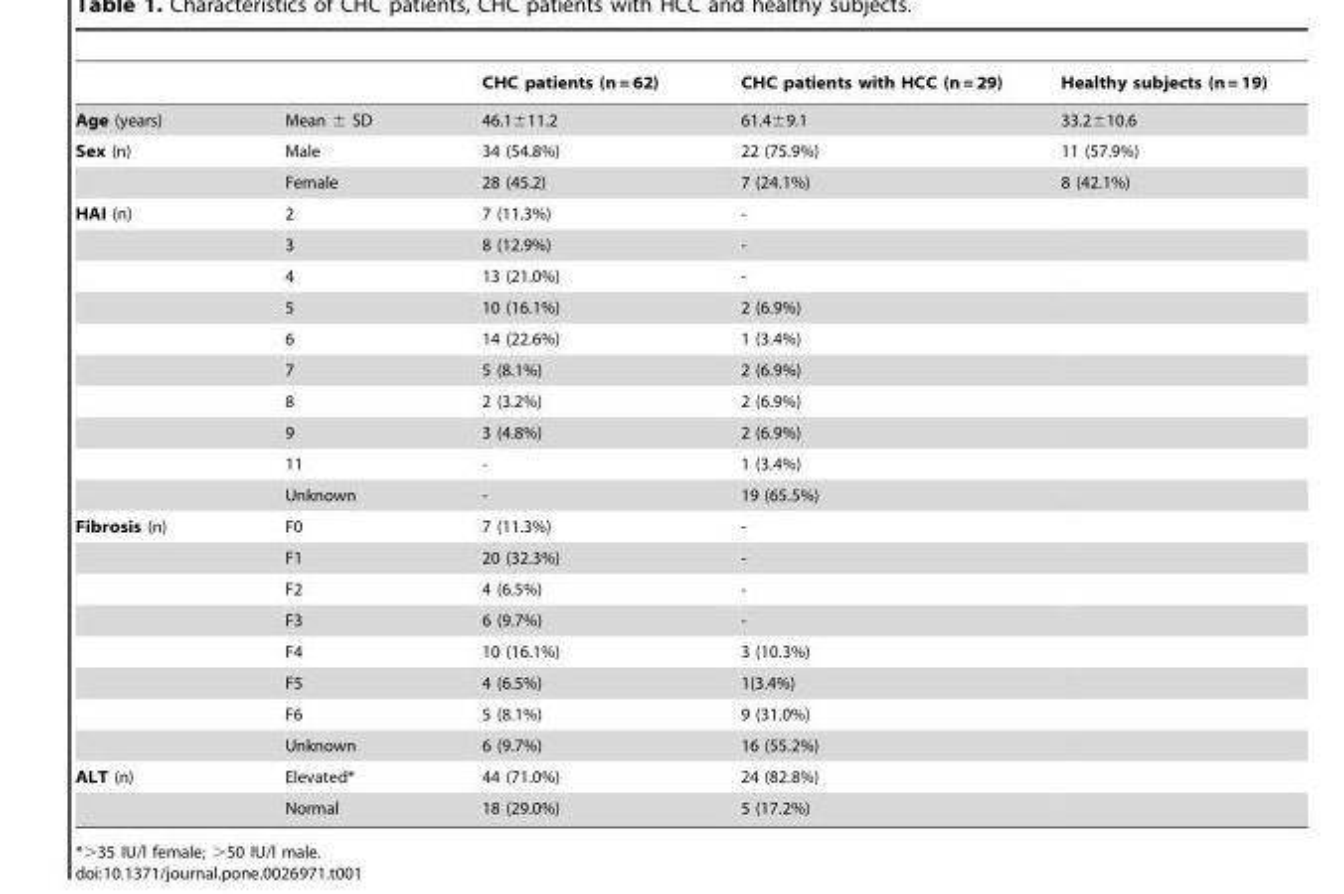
<table><thead><tr><td></td><td></td><td>CHC patients (n = 62)</td><td>CHC patients with HCC (n = 29)</td><td>Healthy subjects (n = 19)</td></tr></thead><tbody><tr><td>Age (years)</td><td>Mean ± SD</td><td>46.1±11.2</td><td>61.4±9.1</td><td>33.2±10.6</td></tr><tr><td rowspan="2">Sex (n)</td><td>Male</td><td>34 (54.8%)</td><td>22 (75.9%)</td><td>11 (57.9%)</td></tr><tr><td>Female</td><td>28 (45.2)</td><td>7 (24.1%)</td><td>8 (42.1%)</td></tr><tr><td rowspan="10">HAI (n)</td><td>2</td><td>7 (11.3%)</td><td>-</td><td></td></tr><tr><td>3</td><td>8 (12.9%)</td><td>-</td><td></td></tr><tr><td>4</td><td>13 (21.0%)</td><td>-</td><td></td></tr><tr><td>5</td><td>10 (16.1%)</td><td>2 (6.9%)</td><td></td></tr><tr><td>6</td><td>14 (22.6%)</td><td>1 (3.4%)</td><td></td></tr><tr><td>7</td><td>5 (8.1%)</td><td>2 (6.9%)</td><td></td></tr><tr><td>8</td><td>2 (3.2%)</td><td>2 (6.9%)</td><td></td></tr><tr><td>9</td><td>3 (4.8%)</td><td>2 (6.9%)</td><td></td></tr><tr><td>11</td><td>-</td><td>1 (3.4%)</td><td></td></tr><tr><td>Unknown</td><td>-</td><td>19 (65.5%)</td><td></td></tr><tr><td rowspan="8">Fibrosis (n)</td><td>F0</td><td>7 (11.3%)</td><td>-</td><td></td></tr><tr><td>F1</td><td>20 (32.3%)</td><td>-</td><td></td></tr><tr><td>F2</td><td>4 (6.5%)</td><td>-</td><td></td></tr><tr><td>F3</td><td>6 (9.7%)</td><td>-</td><td></td></tr><tr><td>F4</td><td>10 (16.1%)</td><td>3 (10.3%)</td><td></td></tr><tr><td>F5</td><td>4 (6.5%)</td><td>1(3.4%)</td><td></td></tr><tr><td>F6</td><td>5 (8.1%)</td><td>9 (31.0%)</td><td></td></tr><tr><td>Unknown</td><td>6 (9.7%)</td><td>16 (55.2%)</td><td></td></tr><tr><td rowspan="2">ALT (n)</td><td>Elevated*</td><td>44 (71.0%)</td><td>24 (82.8%)</td><td></td></tr><tr><td>Normal</td><td>18 (29.0%)</td><td>5 (17.2%)</td><td></td></tr></tbody></table>